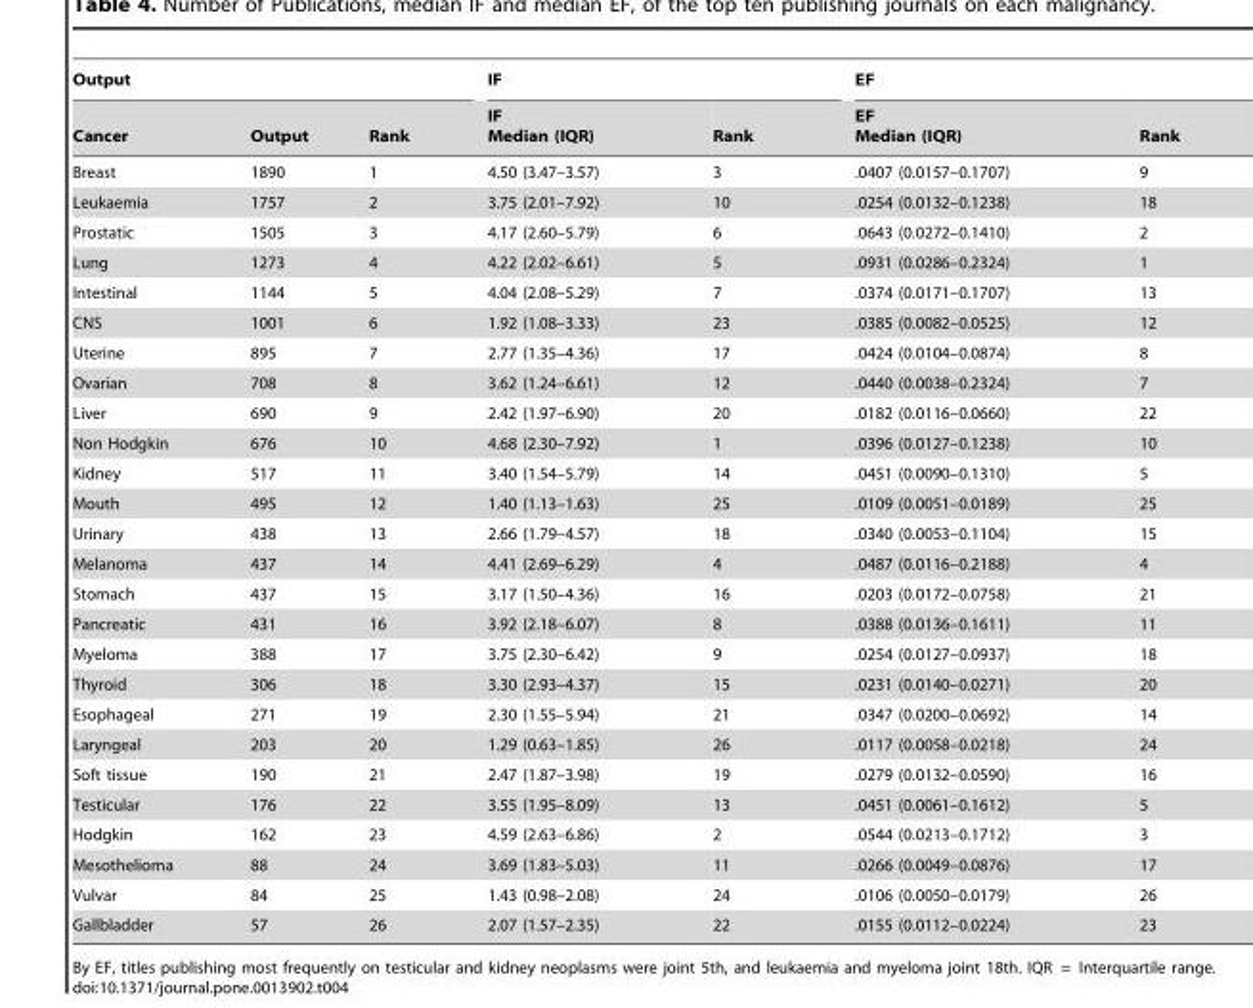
<table><thead><tr><td colspan="3">Output</td><td colspan="2">IF</td><td colspan="2">EF</td></tr><tr><td>Cancer</td><td>Output</td><td>Rank</td><td>IF Median (IQR)</td><td>Rank</td><td>EF Median (IQR)</td><td>Rank</td></tr></thead><tbody><tr><td>Breast</td><td>1890</td><td>1</td><td>4.50 (3.47–3.57)</td><td>3</td><td>.0407 (0.0157–0.1707)</td><td>9</td></tr><tr><td>Leukaemia</td><td>1757</td><td>2</td><td>3.75 (2.01–7.92)</td><td>10</td><td>.0254 (0.0132–0.1238)</td><td>18</td></tr><tr><td>Prostatic</td><td>1505</td><td>3</td><td>4.17 (2.60–5.79)</td><td>6</td><td>.0643 (0.0272–0.1410)</td><td>2</td></tr><tr><td>Lung</td><td>1273</td><td>4</td><td>4.22 (2.02–6.61)</td><td>5</td><td>.0931 (0.0286–0.2324)</td><td>1</td></tr><tr><td>Intestinal</td><td>1144</td><td>5</td><td>4.04 (2.08–5.29)</td><td>7</td><td>.0374 (0.0171–0.1707)</td><td>13</td></tr><tr><td>CNS</td><td>1001</td><td>6</td><td>1.92 (1.08–3.33)</td><td>23</td><td>.0385 (0.0082–0.0525)</td><td>12</td></tr><tr><td>Uterine</td><td>895</td><td>7</td><td>2.77 (1.35–4.36)</td><td>17</td><td>.0424 (0.0104–0.0874)</td><td>8</td></tr><tr><td>Ovarian</td><td>708</td><td>8</td><td>3.62 (1.24–6.61)</td><td>12</td><td>.0440 (0.0038–0.2324)</td><td>7</td></tr><tr><td>Liver</td><td>690</td><td>9</td><td>2.42 (1.97–6.90)</td><td>20</td><td>.0182 (0.0116–0.0660)</td><td>22</td></tr><tr><td>Non Hodgkin</td><td>676</td><td>10</td><td>4.68 (2.30–7.92)</td><td>1</td><td>.0396 (0.0127–0.1238)</td><td>10</td></tr><tr><td>Kidney</td><td>517</td><td>11</td><td>3.40 (1.54–5.79)</td><td>14</td><td>.0451 (0.0090–0.1310)</td><td>5</td></tr><tr><td>Mouth</td><td>495</td><td>12</td><td>1.40 (1.13–1.63)</td><td>25</td><td>.0109 (0.0051–0.0189)</td><td>25</td></tr><tr><td>Urinary</td><td>438</td><td>13</td><td>2.66 (1.79–4.57)</td><td>18</td><td>.0340 (0.0053–0.1104)</td><td>15</td></tr><tr><td>Melanoma</td><td>437</td><td>14</td><td>4.41 (2.69–6.29)</td><td>4</td><td>.0487 (0.0116–0.2188)</td><td>4</td></tr><tr><td>Stomach</td><td>437</td><td>15</td><td>3.17 (1.50–4.36)</td><td>16</td><td>.0203 (0.0172–0.0758)</td><td>21</td></tr><tr><td>Pancreatic</td><td>431</td><td>16</td><td>3.92 (2.18–6.07)</td><td>8</td><td>.0388 (0.0136–0.1611)</td><td>11</td></tr><tr><td>Myeloma</td><td>388</td><td>17</td><td>3.75 (2.30–6.42)</td><td>9</td><td>.0254 (0.0127–0.0937)</td><td>18</td></tr><tr><td>Thyroid</td><td>306</td><td>18</td><td>3.30 (2.93–4.37)</td><td>15</td><td>.0231 (0.0140–0.0271)</td><td>20</td></tr><tr><td>Esophageal</td><td>271</td><td>19</td><td>2.30 (1.55–5.94)</td><td>21</td><td>.0347 (0.0200–0.0692)</td><td>14</td></tr><tr><td>Laryngeal</td><td>203</td><td>20</td><td>1.29 (0.63–1.85)</td><td>26</td><td>.0117 (0.0058–0.0218)</td><td>24</td></tr><tr><td>Soft tissue</td><td>190</td><td>21</td><td>2.47 (1.87–3.98)</td><td>19</td><td>.0279 (0.0132–0.0590)</td><td>16</td></tr><tr><td>Testicular</td><td>176</td><td>22</td><td>3.55 (1.95–8.09)</td><td>13</td><td>.0451 (0.0061–0.1612)</td><td>5</td></tr><tr><td>Hodgkin</td><td>162</td><td>23</td><td>4.59 (2.63–6.86)</td><td>2</td><td>.0544 (0.0213–0.1712)</td><td>3</td></tr><tr><td>Mesothelioma</td><td>88</td><td>24</td><td>3.69 (1.83–5.03)</td><td>11</td><td>.0266 (0.0049–0.0876)</td><td>17</td></tr><tr><td>Vulvar</td><td>84</td><td>25</td><td>1.43 (0.98–2.08)</td><td>24</td><td>.0106 (0.0050–0.0179)</td><td>26</td></tr><tr><td>Gallbladder</td><td>57</td><td>26</td><td>2.07 (1.57–2.35)</td><td>22</td><td>.0155 (0.0112–0.0224)</td><td>23</td></tr></tbody></table>